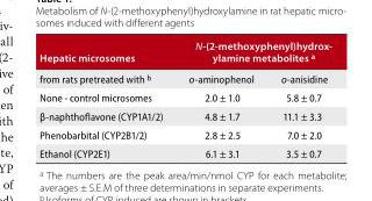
<table><thead><tr><td rowspan="2">Hepatic microsomes from rats pretreated with <sup>b</sup></td><td colspan="2">N-(2-methoxyphenyl)hydrox- ylamine metabolites a</td></tr><tr><td>o-aminophenol</td><td>o-anisidine</td></tr></thead><tbody><tr><td>None - control microsomes</td><td>2.0 ± 1.0</td><td>5.8 ± 0.7</td></tr><tr><td>β-naphthoflavone (CYP1A1/2)</td><td>4.8 ± 1.7</td><td>11.1 ± 3.3</td></tr><tr><td>Phenobarbital (CYP2B1/2)</td><td>2.8 ± 2.5</td><td>7.0 ± 2.0</td></tr><tr><td>Ethanol (CYP2E1)</td><td>6.1 ± 3.1</td><td>3.5 ± 0.7</td></tr></tbody></table>